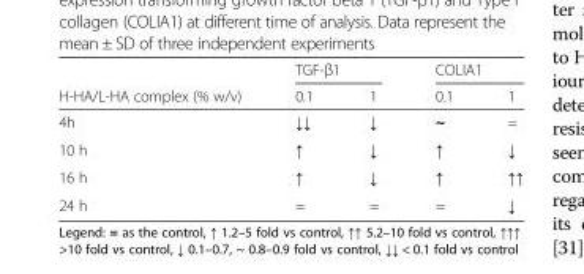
<table><thead><tr><td rowspan="2">H-HA/L-HA complex (% w/v)</td><td colspan="2">TGF-β1</td><td colspan="2">COLIA1</td></tr><tr><td>0.1</td><td>1</td><td>0.1</td><td>1</td></tr></thead><tbody><tr><td>4h</td><td>↓↓</td><td>↓</td><td>~</td><td>=</td></tr><tr><td>10 h</td><td>↑</td><td>↓</td><td>↑</td><td>↓</td></tr><tr><td>16 h</td><td>↑</td><td>↓</td><td>↑</td><td>↑↑</td></tr><tr><td>24 h</td><td>=</td><td>=</td><td>=</td><td>↓</td></tr></tbody></table>